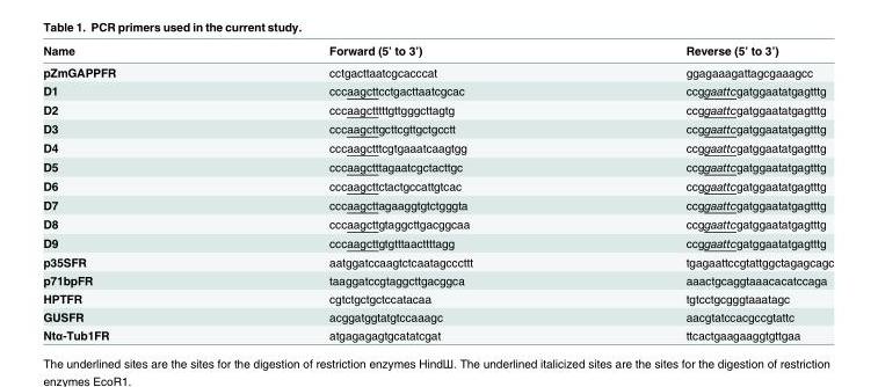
<table><thead><tr><td>Name</td><td>Forward (5’ to 3’)</td><td>Reverse (5’ to 3’)</td></tr></thead><tbody><tr><td>pZmGAPPFR</td><td>cctgacttaatcgcacccat</td><td>ggagaaagattagcgaaagcc</td></tr><tr><td>D1</td><td>cccaagcttcctgacttaatcgcac</td><td>ccggaattcgatggaatatgagtttg</td></tr><tr><td>D2</td><td>cccaagctttttgttgggcttagtg</td><td>ccggaattcgatggaatatgagtttg</td></tr><tr><td>D3</td><td>cccaagcttgcttcgttgctgcctt</td><td>ccggaattcgatggaatatgagtttg</td></tr><tr><td>D4</td><td>cccaagctttcgtgaaatcaagtgg</td><td>ccggaattcgatggaatatgagtttg</td></tr><tr><td>D5</td><td>cccaagctttagaatcgctacttgc</td><td>ccggaattcgatggaatatgagtttg</td></tr><tr><td>D6</td><td>cccaagcttctactgccattgtcac</td><td>ccggaattcgatggaatatgagtttg</td></tr><tr><td>D7</td><td>cccaagcttagaaggtgtctgggta</td><td>ccggaattcgatggaatatgagtttg</td></tr><tr><td>D8</td><td>cccaagcttgtaggcttgacggcaa</td><td>ccggaattcgatggaatatgagtttg</td></tr><tr><td>D9</td><td>cccaagcttgtgtttaacttttagg</td><td>ccggaattcgatggaatatgagtttg</td></tr><tr><td>p35SFR</td><td>aatggatccaagtctcaatagcccttt</td><td>tgagaattccgtattggctagagcagc</td></tr><tr><td>p71bpFR</td><td>taaggatccgtaggcttgacggca</td><td>aaactgcaggtaaacacatccaga</td></tr><tr><td>HPTFR</td><td>cgtctgctgctccatacaa</td><td>tgtcctgcgggtaaatagc</td></tr><tr><td>GUSFR</td><td>acggatggtatgtccaaagc</td><td>aacgtatccacgccgtattc</td></tr><tr><td>Ntα-Tub1FR</td><td>atgagagagtgcatatcgat</td><td>ttcactgaagaaggtgttgaa</td></tr></tbody></table>